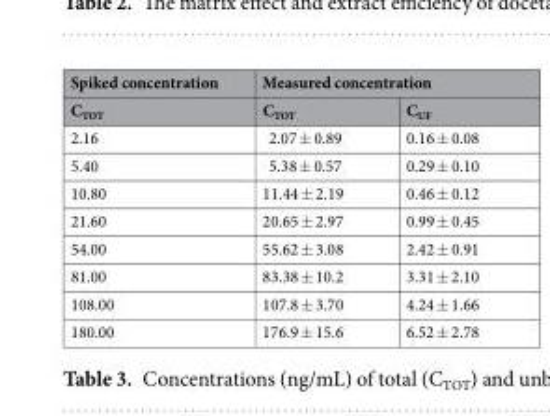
<table><thead><tr><td rowspan="2">Spiked concentration C<sub>TOT</sub></td><td colspan="2">Measured concentration</td></tr><tr><td>C<sub>TOT</sub></td><td>C<sub>UF</sub></td></tr></thead><tbody><tr><td>2.16</td><td>2.07 ± 0.89</td><td>0.16 ± 0.08</td></tr><tr><td>5.40</td><td>5.38 ± 0.57</td><td>0.29 ± 0.10</td></tr><tr><td>10.80</td><td>11.44 ± 2.19</td><td>0.46 ± 0.12</td></tr><tr><td>21.60</td><td>20.65 ± 2.97</td><td>0.99 ± 0.45</td></tr><tr><td>54.00</td><td>55.62 ± 3.08</td><td>2.42 ± 0.91</td></tr><tr><td>81.00</td><td>83.38 ± 10.2</td><td>3.31 ± 2.10</td></tr><tr><td>108.00</td><td>107.8 ± 3.70</td><td>4.24 ± 1.66</td></tr><tr><td>180.00</td><td>176.9 ± 15.6</td><td>6.52 ± 2.78</td></tr></tbody></table>